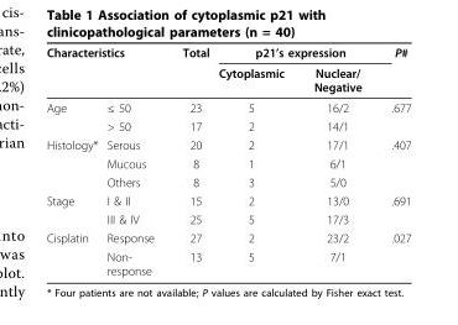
<table><thead><tr><td colspan="2">Characteristics</td><td rowspan="2">Total</td><td colspan="2">p21’s expression</td><td rowspan="2">P#</td></tr><tr><td></td><td></td><td>Cytoplasmic</td><td>Nuclear/ Negative</td></tr></thead><tbody><tr><td rowspan="2">Age</td><td>≤ 50</td><td>23</td><td>5</td><td>16/2</td><td>.677</td></tr><tr><td>&gt; 50</td><td>17</td><td>2</td><td>14/1</td><td></td></tr><tr><td rowspan="3">Histology*</td><td>Serous</td><td>20</td><td>2</td><td>17/1</td><td>.407</td></tr><tr><td>Mucous</td><td>8</td><td>1</td><td>6/1</td><td></td></tr><tr><td>Others</td><td>8</td><td>3</td><td>5/0</td><td></td></tr><tr><td rowspan="2">Stage</td><td>I &amp; II</td><td>15</td><td>2</td><td>13/0</td><td>.691</td></tr><tr><td>III &amp; IV</td><td>25</td><td>5</td><td>17/3</td><td></td></tr><tr><td rowspan="2">Cisplatin</td><td>Response</td><td>27</td><td>2</td><td>23/2</td><td>.027</td></tr><tr><td>Non- response</td><td>13</td><td>5</td><td>7/1</td><td></td></tr></tbody></table>